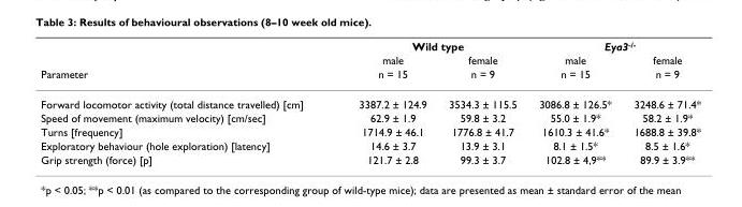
<table><thead><tr><td rowspan="3">Parameter</td><td colspan="2">Wild type</td><td colspan="2">Eya3<sup>-/-</sup></td></tr><tr><td rowspan="2">male n = 15</td><td rowspan="2">female n = 9</td><td rowspan="2">male n = 15</td><td rowspan="2">female n = 9</td></tr><tr></tr></thead><tbody><tr><td>Forward locomotor activity (total distance travelled) [cm]</td><td>3387.2 ± 124.9</td><td>3534.3 ± 115.5</td><td>3086.8 ± 126.5*</td><td>3248.6 ± 71.4*</td></tr><tr><td>Speed of movement (maximum velocity) [cm/sec]</td><td>62.9 ± 1.9</td><td>59.8 ± 3.2</td><td>55.0 ± 1.9*</td><td>58.2 ± 1.9*</td></tr><tr><td>Turns [frequency]</td><td>1714.9 ± 46.1</td><td>1776.8 ± 41.7</td><td>1610.3 ± 41.6*</td><td>1688.8 ± 39.8*</td></tr><tr><td>Exploratory behaviour (hole exploration) [latency]</td><td>14.6 ± 3.7</td><td>13.9 ± 3.1</td><td>8.1 ± 1.5*</td><td>8.5 ± 1.6*</td></tr><tr><td>Grip strength (force) [p]</td><td>121.7 ± 2.8</td><td>99.3 ± 3.7</td><td>102.8 ± 4,9**</td><td>89.9 ± 3.9**</td></tr></tbody></table>